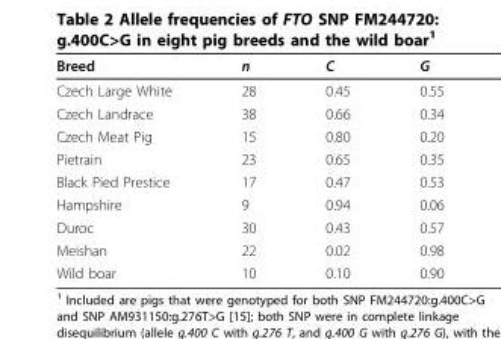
<table><thead><tr><td>Breed</td><td>n</td><td>C</td><td>G</td></tr></thead><tbody><tr><td>Czech Large White</td><td>28</td><td>0.45</td><td>0.55</td></tr><tr><td>Czech Landrace</td><td>38</td><td>0.66</td><td>0.34</td></tr><tr><td>Czech Meat Pig</td><td>15</td><td>0.80</td><td>0.20</td></tr><tr><td>Pietrain</td><td>23</td><td>0.65</td><td>0.35</td></tr><tr><td>Black Pied Prestice</td><td>17</td><td>0.47</td><td>0.53</td></tr><tr><td>Hampshire</td><td>9</td><td>0.94</td><td>0.06</td></tr><tr><td>Duroc</td><td>30</td><td>0.43</td><td>0.57</td></tr><tr><td>Meishan</td><td>22</td><td>0.02</td><td>0.98</td></tr><tr><td>Wild boar</td><td>10</td><td>0.10</td><td>0.90</td></tr></tbody></table>